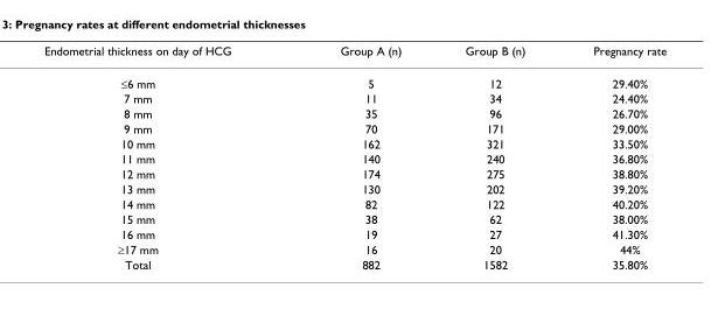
<table><thead><tr><td>Endometrial thickness on day of HCG</td><td>Group A (n)</td><td>Group B (n)</td><td>Pregnancy rate</td></tr></thead><tbody><tr><td>≤6 mm</td><td>5</td><td>12</td><td>29.40%</td></tr><tr><td>7 mm</td><td>11</td><td>34</td><td>24.40%</td></tr><tr><td>8 mm</td><td>35</td><td>96</td><td>26.70%</td></tr><tr><td>9 mm</td><td>70</td><td>171</td><td>29.00%</td></tr><tr><td>10 mm</td><td>162</td><td>321</td><td>33.50%</td></tr><tr><td>11 mm</td><td>140</td><td>240</td><td>36.80%</td></tr><tr><td>12 mm</td><td>174</td><td>275</td><td>38.80%</td></tr><tr><td>13 mm</td><td>130</td><td>202</td><td>39.20%</td></tr><tr><td>14 mm</td><td>82</td><td>122</td><td>40.20%</td></tr><tr><td>15 mm</td><td>38</td><td>62</td><td>38.00%</td></tr><tr><td>16 mm</td><td>19</td><td>27</td><td>41.30%</td></tr><tr><td>≥17 mm</td><td>16</td><td>20</td><td>44%</td></tr><tr><td>Total</td><td>882</td><td>1582</td><td>35.80%</td></tr></tbody></table>